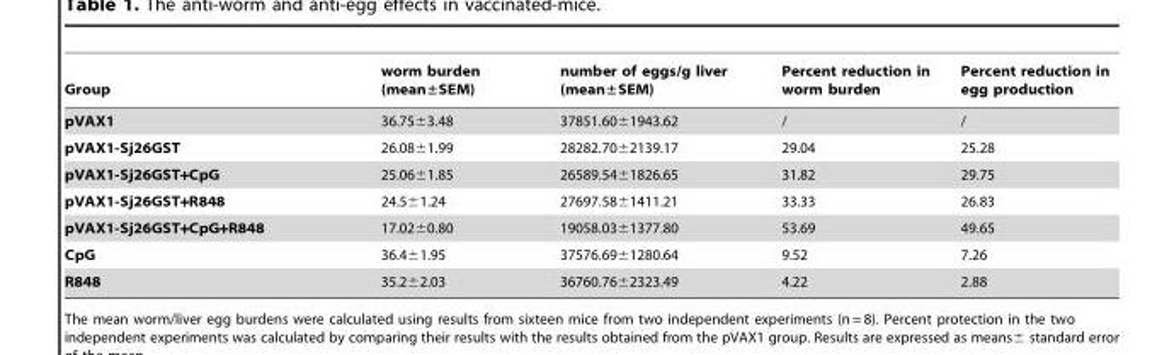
<table><thead><tr><td>Group</td><td>worm burden (mean±SEM)</td><td>number of eggs/g liver (mean±SEM)</td><td>Percent reduction in worm burden</td><td>Percent reduction in egg production</td></tr></thead><tbody><tr><td>pVAX1</td><td>36.75±3.48</td><td>37851.60±1943.62</td><td>/</td><td>/</td></tr><tr><td>pVAX1-Sj26GST</td><td>26.08±1.99</td><td>28282.70±2139.17</td><td>29.04</td><td>25.28</td></tr><tr><td>pVAX1-Sj26GST+CpG</td><td>25.06±1.85</td><td>26589.54±1826.65</td><td>31.82</td><td>29.75</td></tr><tr><td>pVAX1-Sj26GST+R848</td><td>24.5±1.24</td><td>27697.58±1411.21</td><td>33.33</td><td>26.83</td></tr><tr><td>pVAX1-Sj26GST+CpG+R848</td><td>17.02±0.80</td><td>19058.03±1377.80</td><td>53.69</td><td>49.65</td></tr><tr><td>CpG</td><td>36.4±1.95</td><td>37576.69±1280.64</td><td>9.52</td><td>7.26</td></tr><tr><td>R848</td><td>35.2±2.03</td><td>36760.76±2323.49</td><td>4.22</td><td>2.88</td></tr></tbody></table>